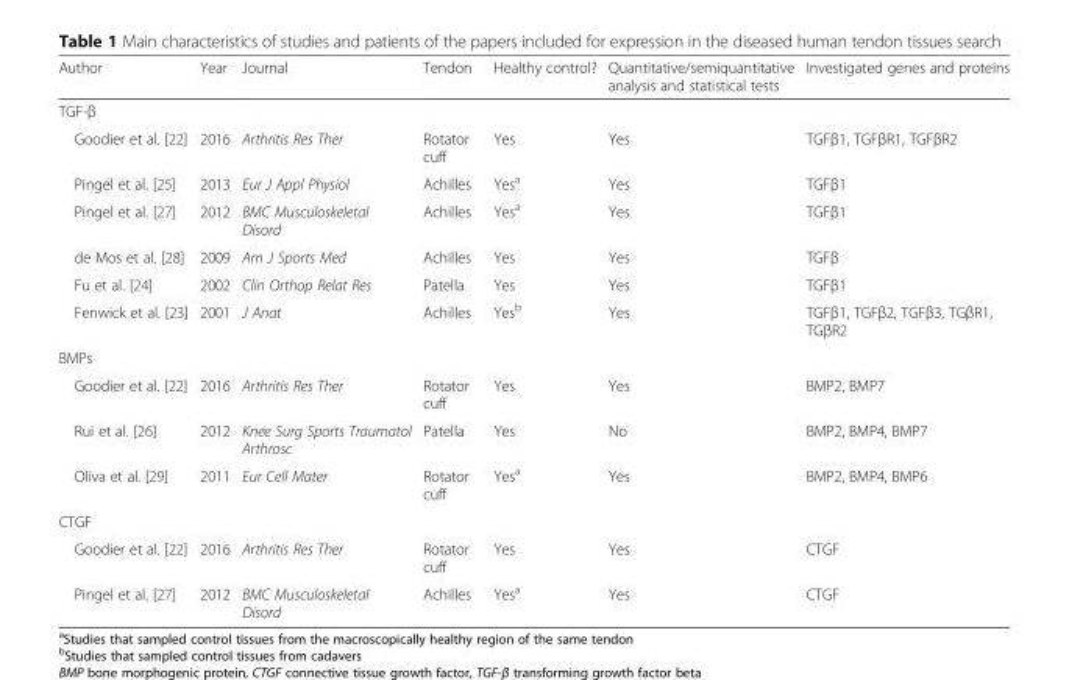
<table><thead><tr><td>Author</td><td>Year</td><td>Journal</td><td>Tendon</td><td>Healthy control?</td><td>Quantitative/semiquantitative analysis and statistical tests</td><td>Investigated genes and proteins</td></tr></thead><tbody><tr><td colspan="7">TGF-β</td></tr><tr><td>Goodier et al. [22]</td><td>2016</td><td>Arthritis Res Ther</td><td>Rotator cuff</td><td>Yes</td><td>Yes</td><td>TGFβ1, TGFβR1, TGFβR2</td></tr><tr><td>Pingel et al. [25]</td><td>2013</td><td>Eur J Appl Physiol</td><td>Achilles</td><td>Yes<sup>a</sup></td><td>Yes</td><td>TGFβ1</td></tr><tr><td>Pingel et al. [27]</td><td>2012</td><td>BMC Musculoskeletal Disord</td><td>Achilles</td><td>Yes<sup>a</sup></td><td>Yes</td><td>TGFβ1</td></tr><tr><td>de Mos et al. [28]</td><td>2009</td><td>Am J Sports Med</td><td>Achilles</td><td>Yes</td><td>Yes</td><td>TGFβ</td></tr><tr><td>Fu et al. [24]</td><td>2002</td><td>Clin Orthop Relat Res</td><td>Patella</td><td>Yes</td><td>Yes</td><td>TGFβ1</td></tr><tr><td>Fenwick et al. [23]</td><td>2001</td><td>J Anat</td><td>Achilles</td><td>Yes<sup>b</sup></td><td>Yes</td><td>TGFβ1, TGFβ2, TGFβ3, TGβR1, TGβR2</td></tr><tr><td colspan="7">BMPs</td></tr><tr><td>Goodier et al. [22]</td><td>2016</td><td>Arthritis Res Ther</td><td>Rotator cuff</td><td>Yes</td><td>Yes</td><td>BMP2, BMP7</td></tr><tr><td>Rui et al. [26]</td><td>2012</td><td>Knee Surg Sports Traumatol Arthrosc</td><td>Patella</td><td>Yes</td><td>No</td><td>BMP2, BMP4, BMP7</td></tr><tr><td>Oliva et al. [29]</td><td>2011</td><td>Eur Cell Mater</td><td>Rotator cuff</td><td>Yes<sup>a</sup></td><td>Yes</td><td>BMP2, BMP4, BMP6</td></tr><tr><td colspan="7">CTGF</td></tr><tr><td>Goodier et al. [22]</td><td>2016</td><td>Arthritis Res Ther</td><td>Rotator cuff</td><td>Yes</td><td>Yes</td><td>CTGF</td></tr><tr><td>Pingel et al. [27]</td><td>2012</td><td>BMC Musculoskeletal Disord</td><td>Achilles</td><td>Yes<sup>a</sup></td><td>Yes</td><td>CTGF</td></tr></tbody></table>